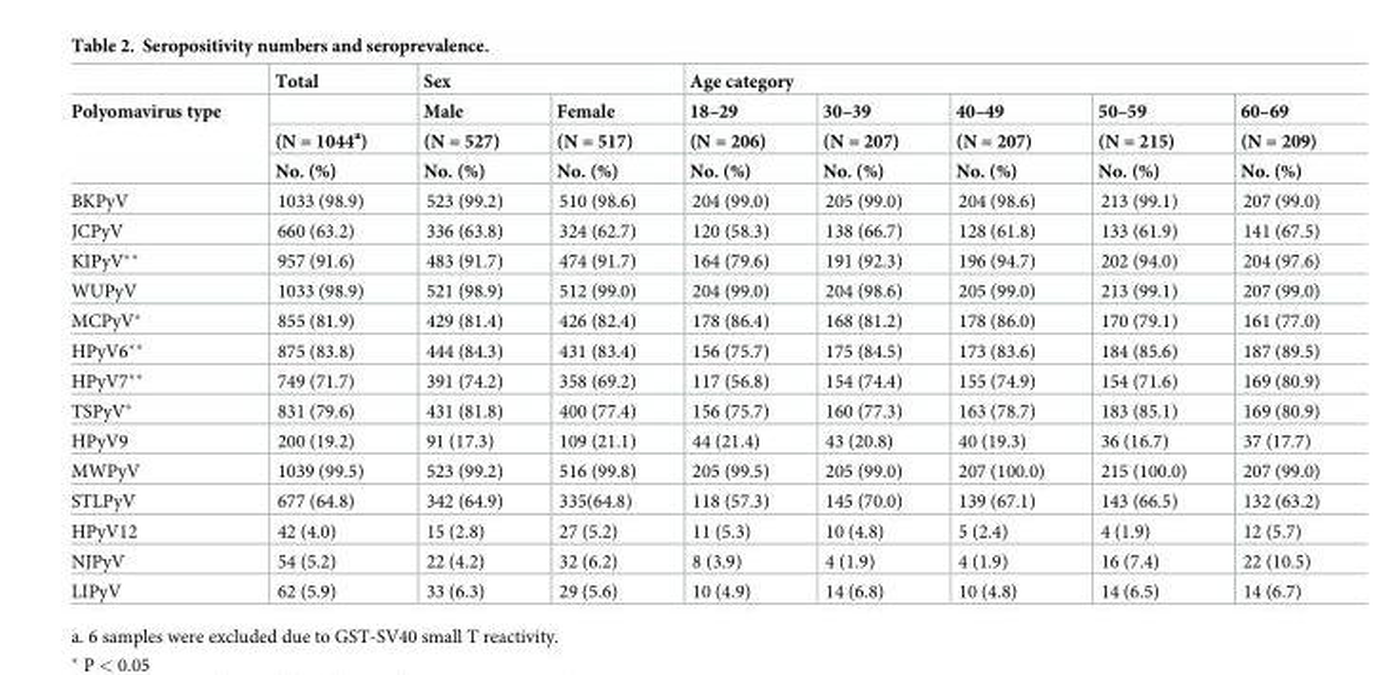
<table><thead><tr><td rowspan="4">Polyomavirus type</td><td rowspan="4">Total (N = 1044<sup>a</sup>) No. (%)</td><td colspan="2">Sex</td><td colspan="5">Age category</td></tr><tr><td rowspan="3">Male (N = 527) No. (%)</td><td rowspan="3">Female (N = 517) No. (%)</td><td rowspan="3">18–29 (N = 206) No. (%)</td><td rowspan="3">30–39 (N = 207) No. (%)</td><td rowspan="3">40–49 (N = 207) No. (%)</td><td rowspan="3">50–59 (N = 215) No. (%)</td><td rowspan="3">60–69 (N = 209) No. (%)</td></tr><tr></tr><tr></tr></thead><tbody><tr><td>BKPyV</td><td>1033 (98.9)</td><td>523 (99.2)</td><td>510 (98.6)</td><td>204 (99.0)</td><td>205 (99.0)</td><td>204 (98.6)</td><td>213 (99.1)</td><td>207 (99.0)</td></tr><tr><td>JCPyV</td><td>660 (63.2)</td><td>336 (63.8)</td><td>324 (62.7)</td><td>120 (58.3)</td><td>138 (66.7)</td><td>128 (61.8)</td><td>133 (61.9)</td><td>141 (67.5)</td></tr><tr><td>KIPyV**</td><td>957 (91.6)</td><td>483 (91.7)</td><td>474 (91.7)</td><td>164 (79.6)</td><td>191 (92.3)</td><td>196 (94.7)</td><td>202 (94.0)</td><td>204 (97.6)</td></tr><tr><td>WUPyV</td><td>1033 (98.9)</td><td>521 (98.9)</td><td>512 (99.0)</td><td>204 (99.0)</td><td>204 (98.6)</td><td>205 (99.0)</td><td>213 (99.1)</td><td>207 (99.0)</td></tr><tr><td>MCPyV*</td><td>855 (81.9)</td><td>429 (81.4)</td><td>426 (82.4)</td><td>178 (86.4)</td><td>168 (81.2)</td><td>178 (86.0)</td><td>170 (79.1)</td><td>161 (77.0)</td></tr><tr><td>HPyV6**</td><td>875 (83.8)</td><td>444 (84.3)</td><td>431 (83.4)</td><td>156 (75.7)</td><td>175 (84.5)</td><td>173 (83.6)</td><td>184 (85.6)</td><td>187 (89.5)</td></tr><tr><td>HPyV7**</td><td>749 (71.7)</td><td>391 (74.2)</td><td>358 (69.2)</td><td>117 (56.8)</td><td>154 (74.4)</td><td>155 (74.9)</td><td>154 (71.6)</td><td>169 (80.9)</td></tr><tr><td>TSPyV*</td><td>831 (79.6)</td><td>431 (81.8)</td><td>400 (77.4)</td><td>156 (75.7)</td><td>160 (77.3)</td><td>163 (78.7)</td><td>183 (85.1)</td><td>169 (80.9)</td></tr><tr><td>HPyV9</td><td>200 (19.2)</td><td>91 (17.3)</td><td>109 (21.1)</td><td>44 (21.4)</td><td>43 (20.8)</td><td>40 (19.3)</td><td>36 (16.7)</td><td>37 (17.7)</td></tr><tr><td>MWPyV</td><td>1039 (99.5)</td><td>523 (99.2)</td><td>516 (99.8)</td><td>205 (99.5)</td><td>205 (99.0)</td><td>207 (100.0)</td><td>215 (100.0)</td><td>207 (99.0)</td></tr><tr><td>STLPyV</td><td>677 (64.8)</td><td>342 (64.9)</td><td>335(64.8)</td><td>118 (57.3)</td><td>145 (70.0)</td><td>139 (67.1)</td><td>143 (66.5)</td><td>132 (63.2)</td></tr><tr><td>HPyV12</td><td>42 (4.0)</td><td>15 (2.8)</td><td>27 (5.2)</td><td>11 (5.3)</td><td>10 (4.8)</td><td>5 (2.4)</td><td>4 (1.9)</td><td>12 (5.7)</td></tr><tr><td>NJPyV</td><td>54 (5.2)</td><td>22 (4.2)</td><td>32 (6.2)</td><td>8 (3.9)</td><td>4 (1.9)</td><td>4 (1.9)</td><td>16 (7.4)</td><td>22 (10.5)</td></tr><tr><td>LIPyV</td><td>62 (5.9)</td><td>33 (6.3)</td><td>29 (5.6)</td><td>10 (4.9)</td><td>14 (6.8)</td><td>10 (4.8)</td><td>14 (6.5)</td><td>14 (6.7)</td></tr></tbody></table>